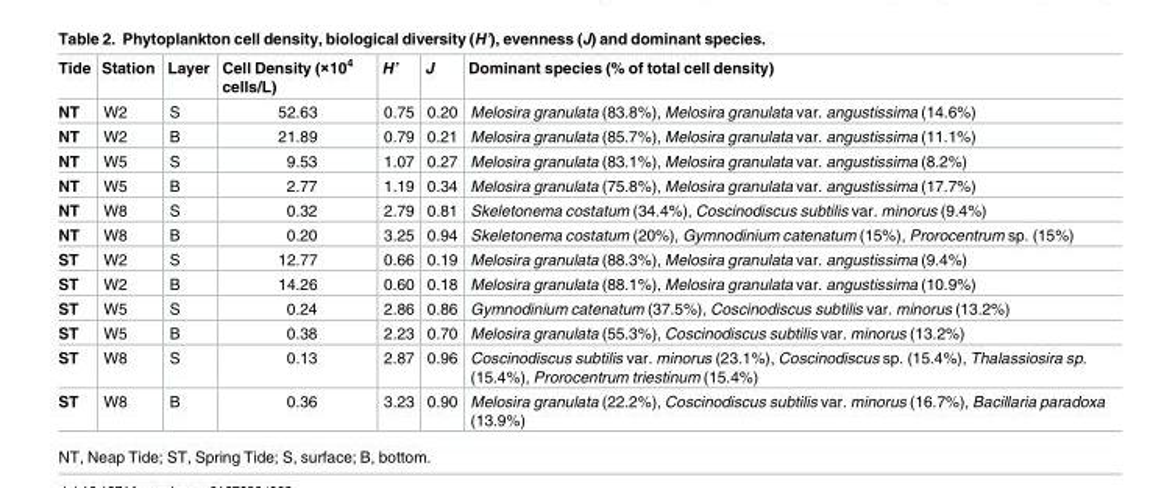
<table><thead><tr><td>Tide</td><td>Station</td><td>Layer</td><td>Cell Density (×10<sup>4</sup> cells/L)</td><td>H’</td><td>J</td><td>Dominant species (% of total cell density)</td></tr></thead><tbody><tr><td>NT</td><td>W2</td><td>S</td><td>52.63</td><td>0.75</td><td>0.20</td><td>Melosira granulata (83.8%), Melosira granulata var. angustissima (14.6%)</td></tr><tr><td>NT</td><td>W2</td><td>B</td><td>21.89</td><td>0.79</td><td>0.21</td><td>Melosira granulata (85.7%), Melosira granulata var. angustissima (11.1%)</td></tr><tr><td>NT</td><td>W5</td><td>S</td><td>9.53</td><td>1.07</td><td>0.27</td><td>Melosira granulata (83.1%), Melosira granulata var. angustissima (8.2%)</td></tr><tr><td>NT</td><td>W5</td><td>B</td><td>2.77</td><td>1.19</td><td>0.34</td><td>Melosira granulata (75.8%), Melosira granulata var. angustissima (17.7%)</td></tr><tr><td>NT</td><td>W8</td><td>S</td><td>0.32</td><td>2.79</td><td>0.81</td><td>Skeletonema costatum (34.4%), Coscinodiscus subtilis var. minorus (9.4%)</td></tr><tr><td>NT</td><td>W8</td><td>B</td><td>0.20</td><td>3.25</td><td>0.94</td><td>Skeletonema costatum (20%), Gymnodinium catenatum (15%), Prorocentrum sp. (15%)</td></tr><tr><td>ST</td><td>W2</td><td>S</td><td>12.77</td><td>0.66</td><td>0.19</td><td>Melosira granulata (88.3%), Melosira granulata var. angustissima (9.4%)</td></tr><tr><td>ST</td><td>W2</td><td>B</td><td>14.26</td><td>0.60</td><td>0.18</td><td>Melosira granulata (88.1%), Melosira granulata var. angustissima (10.9%)</td></tr><tr><td>ST</td><td>W5</td><td>S</td><td>0.24</td><td>2.86</td><td>0.86</td><td>Gymnodinium catenatum (37.5%), Coscinodiscus subtilis var. minorus (13.2%)</td></tr><tr><td>ST</td><td>W5</td><td>B</td><td>0.38</td><td>2.23</td><td>0.70</td><td>Melosira granulata (55.3%), Coscinodiscus subtilis var. minorus (13.2%)</td></tr><tr><td>ST</td><td>W8</td><td>S</td><td>0.13</td><td>2.87</td><td>0.96</td><td>Coscinodiscus subtilis var. minorus (23.1%), Coscinodiscus sp. (15.4%), Thalassiosira sp. (15.4%), Prorocentrum triestinum (15.4%)</td></tr><tr><td>ST</td><td>W8</td><td>B</td><td>0.36</td><td>3.23</td><td>0.90</td><td>Melosira granulata (22.2%), Coscinodiscus subtilis var. minorus (16.7%), Bacillaria paradoxa (13.9%)</td></tr></tbody></table>